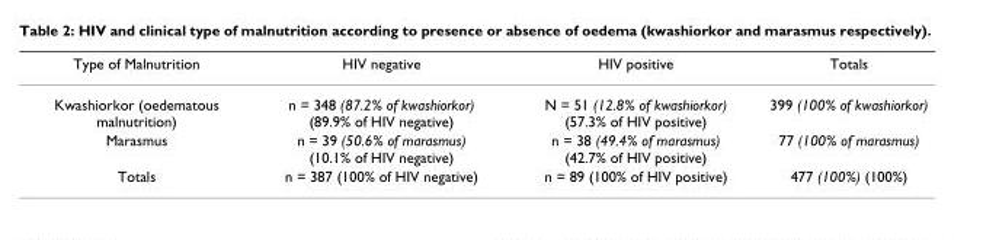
<table><thead><tr><td>Type of Malnutrition</td><td>HIV negative</td><td>HIV positive</td><td>Totals</td></tr></thead><tbody><tr><td>Kwashiorkor (oedematous malnutrition)</td><td>n = 348 (87.2% of kwashiorkor) (89.9% of HIV negative)</td><td>N = 51 (12.8% of kwashiorkor) (57.3% of HIV positive)</td><td>399 (100% of kwashiorkor)</td></tr><tr><td>Marasmus</td><td>n = 39 (50.6% of marasmus) (10.1% of HIV negative)</td><td>n = 38 (49.4% of marasmus) (42.7% of HIV positive)</td><td>77 (100% of marasmus)</td></tr><tr><td>Totals</td><td>n = 387 (100% of HIV negative)</td><td>n = 89 (100% of HIV positive)</td><td>477 (100%) (100%)</td></tr></tbody></table>